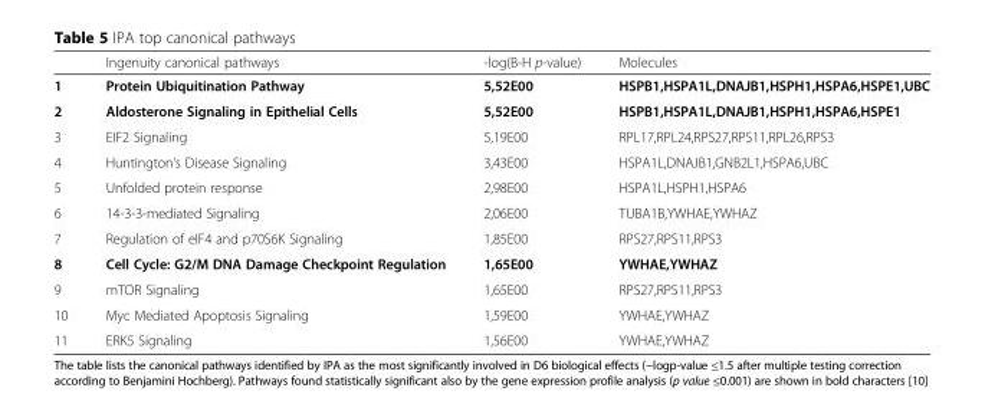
<table><thead><tr><td></td><td>Ingenuity canonical pathways</td><td>-log(B-H p-value)</td><td>Molecules</td></tr></thead><tbody><tr><td>1</td><td>Protein Ubiquitination Pathway</td><td>5,52E00</td><td>HSPB1,HSPA1L,DNAJB1,HSPH1,HSPA6,HSPE1,UBC</td></tr><tr><td>2</td><td>Aldosterone Signaling in Epithelial Cells</td><td>5,52E00</td><td>HSPB1,HSPA1L,DNAJB1,HSPH1,HSPA6,HSPE1</td></tr><tr><td>3</td><td>EIF2 Signaling</td><td>5,19E00</td><td>RPL17,RPL24,RPS27,RPS11,RPL26,RPS3</td></tr><tr><td>4</td><td>Huntington’s Disease Signaling</td><td>3,43E00</td><td>HSPA1L,DNAJB1,GNB2L1,HSPA6,UBC</td></tr><tr><td>5</td><td>Unfolded protein response</td><td>2,98E00</td><td>HSPA1L,HSPH1,HSPA6</td></tr><tr><td>6</td><td>14-3-3-mediated Signaling</td><td>2,06E00</td><td>TUBA1B,YWHAE,YWHAZ</td></tr><tr><td>7</td><td>Regulation of eIF4 and p70S6K Signaling</td><td>1,85E00</td><td>RPS27,RPS11,RPS3</td></tr><tr><td>8</td><td>Cell Cycle: G2/M DNA Damage Checkpoint Regulation</td><td>1,65E00</td><td>YWHAE,YWHAZ</td></tr><tr><td>9</td><td>mTOR Signaling</td><td>1,65E00</td><td>RPS27,RPS11,RPS3</td></tr><tr><td>10</td><td>Myc Mediated Apoptosis Signaling</td><td>1,59E00</td><td>YWHAE,YWHAZ</td></tr><tr><td>11</td><td>ERK5 Signaling</td><td>1,56E00</td><td>YWHAE,YWHAZ</td></tr></tbody></table>